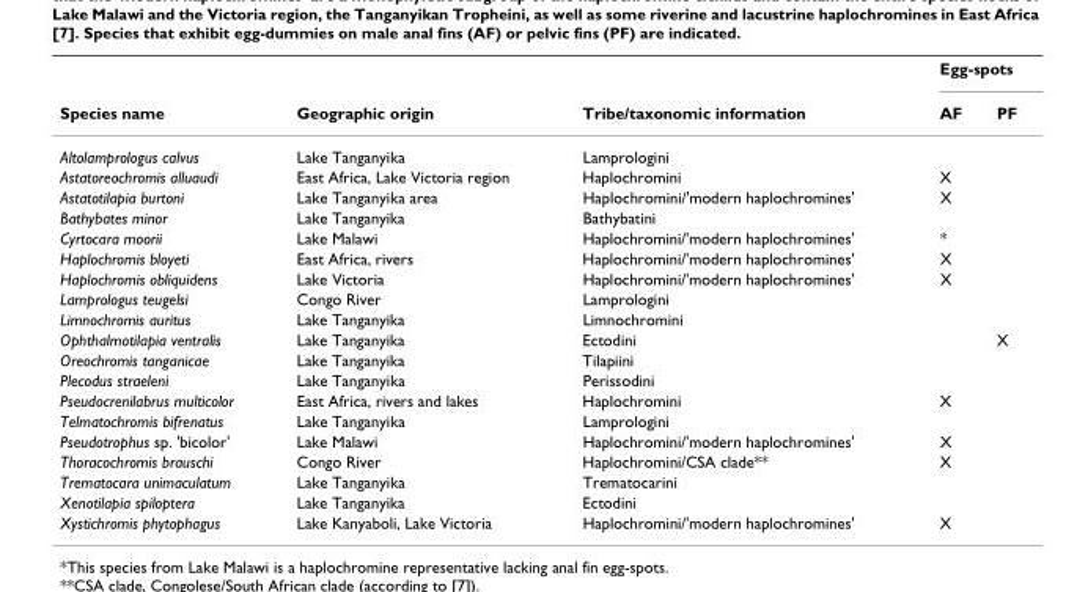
<table><thead><tr><td rowspan="2">Species name</td><td rowspan="2">Geographic origin</td><td rowspan="2">Tribe/taxonomic information</td><td colspan="2">Egg-spots</td></tr><tr><td>AF</td><td>PF</td></tr></thead><tbody><tr><td>Altolamprologus calvus</td><td>Lake Tanganyika</td><td>Lamprologini</td><td></td><td></td></tr><tr><td>Astatoreochromis alluaudi</td><td>East Africa, Lake Victoria region</td><td>Haplochromini</td><td>X</td><td></td></tr><tr><td>Astatotilapia burtoni</td><td>Lake Tanganyika area</td><td>Haplochromini/&#x27;modern haplochromines&#x27;</td><td>X</td><td></td></tr><tr><td>Bathybates minor</td><td>Lake Tanganyika</td><td>Bathybatini</td><td></td><td></td></tr><tr><td>Cyrtocara moorii</td><td>Lake Malawi</td><td>Haplochromini/&#x27;modern haplochromines&#x27;</td><td>*</td><td></td></tr><tr><td>Haplochromis bloyeti</td><td>East Africa, rivers</td><td>Haplochromini/&#x27;modern haplochromines&#x27;</td><td>X</td><td></td></tr><tr><td>Haplochromis obliquidens</td><td>Lake Victoria</td><td>Haplochromini/&#x27;modern haplochromines&#x27;</td><td>X</td><td></td></tr><tr><td>Lamprologus teugelsi</td><td>Congo River</td><td>Lamprologini</td><td></td><td></td></tr><tr><td>Limnochromis auritus</td><td>Lake Tanganyika</td><td>Limnochromini</td><td></td><td></td></tr><tr><td>Ophthalmotilapia ventralis</td><td>Lake Tanganyika</td><td>Ectodini</td><td></td><td>X</td></tr><tr><td>Oreochromis tanganicae</td><td>Lake Tanganyika</td><td>Tilapiini</td><td></td><td></td></tr><tr><td>Plecodus straeleni</td><td>Lake Tanganyika</td><td>Perissodini</td><td></td><td></td></tr><tr><td>Pseudocrenilabrus multicolor</td><td>East Africa, rivers and lakes</td><td>Haplochromini</td><td>X</td><td></td></tr><tr><td>Telmatochromis bifrenatus</td><td>Lake Tanganyika</td><td>Lamprologini</td><td></td><td></td></tr><tr><td>Pseudotrophus sp. &#x27;bicolor&#x27;</td><td>Lake Malawi</td><td>Haplochromini/&#x27;modern haplochromines&#x27;</td><td>X</td><td></td></tr><tr><td>Thoracochromis brauschi</td><td>Congo River</td><td>Haplochromini/CSA clade**</td><td>X</td><td></td></tr><tr><td>Trematocara unimaculatum</td><td>Lake Tanganyika</td><td>Trematocarini</td><td></td><td></td></tr><tr><td>Xenotilapia spiloptera</td><td>Lake Tanganyika</td><td>Ectodini</td><td></td><td></td></tr><tr><td>Xystichromis phytophagus</td><td>Lake Kanyaboli, Lake Victoria</td><td>Haplochromini/&#x27;modern haplochromines&#x27;</td><td>X</td><td></td></tr></tbody></table>